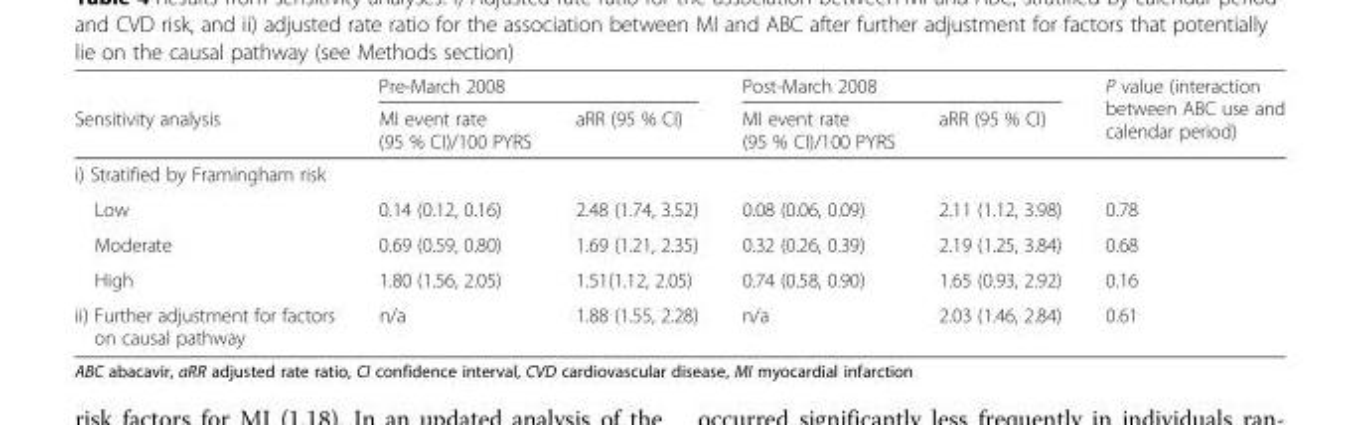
<table><thead><tr><td rowspan="2">Sensitivity analysis</td><td colspan="2">Pre-March 2008</td><td colspan="2">Post-March 2008</td><td rowspan="2">P value (interaction between ABC use and calendar period)</td></tr><tr><td>MI event rate (95 % CI)/100 PYRS</td><td>aRR (95 % CI)</td><td>MI event rate (95 % CI)/100 PYRS</td><td>aRR (95 % CI)</td></tr></thead><tbody><tr><td colspan="6">i) Stratified by Framingham risk</td></tr><tr><td>Low</td><td>0.14 (0.12, 0.16)</td><td>2.48 (1.74, 3.52)</td><td>0.08 (0.06, 0.09)</td><td>2.11 (1.12, 3.98)</td><td>0.78</td></tr><tr><td>Moderate</td><td>0.69 (0.59, 0.80)</td><td>1.69 (1.21, 2.35)</td><td>0.32 (0.26, 0.39)</td><td>2.19 (1.25, 3.84)</td><td>0.68</td></tr><tr><td>High</td><td>1.80 (1.56, 2.05)</td><td>1.51(1.12, 2.05)</td><td>0.74 (0.58, 0.90)</td><td>1.65 (0.93, 2.92)</td><td>0.16</td></tr><tr><td>ii) Further adjustment for factors on causal pathway</td><td>n/a</td><td>1.88 (1.55, 2.28)</td><td>n/a</td><td>2.03 (1.46, 2.84)</td><td>0.61</td></tr></tbody></table>